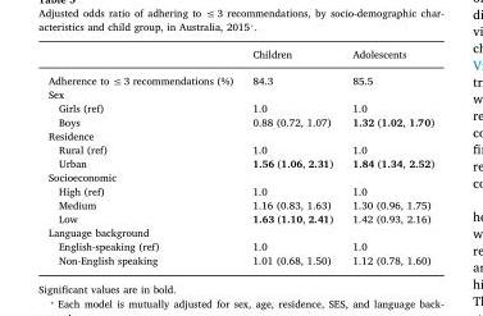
<table><thead><tr><td></td><td>Children</td><td>Adolescents</td></tr></thead><tbody><tr><td>Adherence to ≤3 recommendations (%)</td><td>84.3</td><td>85.5</td></tr><tr><td colspan="3">Sex</td></tr><tr><td>Girls (ref)</td><td>1.0</td><td>1.0</td></tr><tr><td>Boys</td><td>0.88 (0.72, 1.07)</td><td>1.32 (1.02, 1.70)</td></tr><tr><td colspan="3">Residence</td></tr><tr><td>Rural (ref)</td><td>1.0</td><td>1.0</td></tr><tr><td>Urban</td><td>1.56 (1.06, 2.31)</td><td>1.84 (1.34, 2.52)</td></tr><tr><td colspan="3">Socioeconomic</td></tr><tr><td>High (ref)</td><td>1.0</td><td>1.0</td></tr><tr><td>Medium</td><td>1.16 (0.83, 1.63)</td><td>1.30 (0.96, 1.75)</td></tr><tr><td>Low</td><td>1.63 (1.10, 2.41)</td><td>1.42 (0.93, 2.16)</td></tr><tr><td colspan="3">Language background</td></tr><tr><td>English-speaking (ref)</td><td>1.0</td><td>1.0</td></tr><tr><td>Non-English speaking</td><td>1.01 (0.68, 1.50)</td><td>1.12 (0.78, 1.60)</td></tr></tbody></table>